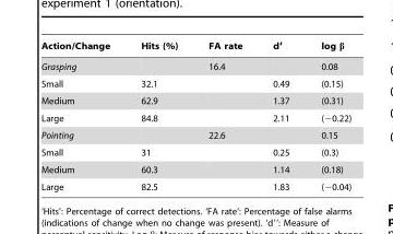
<table><thead><tr><td>Action/Change</td><td>Hits (%)</td><td>FA rate</td><td>d′</td><td>log β</td></tr></thead><tbody><tr><td>Grasping</td><td></td><td>16.4</td><td></td><td>0.08</td></tr><tr><td>Small</td><td>32.1</td><td></td><td>0.49</td><td>(0.15)</td></tr><tr><td>Medium</td><td>62.9</td><td></td><td>1.37</td><td>(0.31)</td></tr><tr><td>Large</td><td>84.8</td><td></td><td>2.11</td><td>(−0.22)</td></tr><tr><td>Pointing</td><td></td><td>22.6</td><td></td><td>0.15</td></tr><tr><td>Small</td><td>31</td><td></td><td>0.25</td><td>(0.3)</td></tr><tr><td>Medium</td><td>60.3</td><td></td><td>1.14</td><td>(0.18)</td></tr><tr><td>Large</td><td>82.5</td><td></td><td>1.83</td><td>(−0.04)</td></tr></tbody></table>